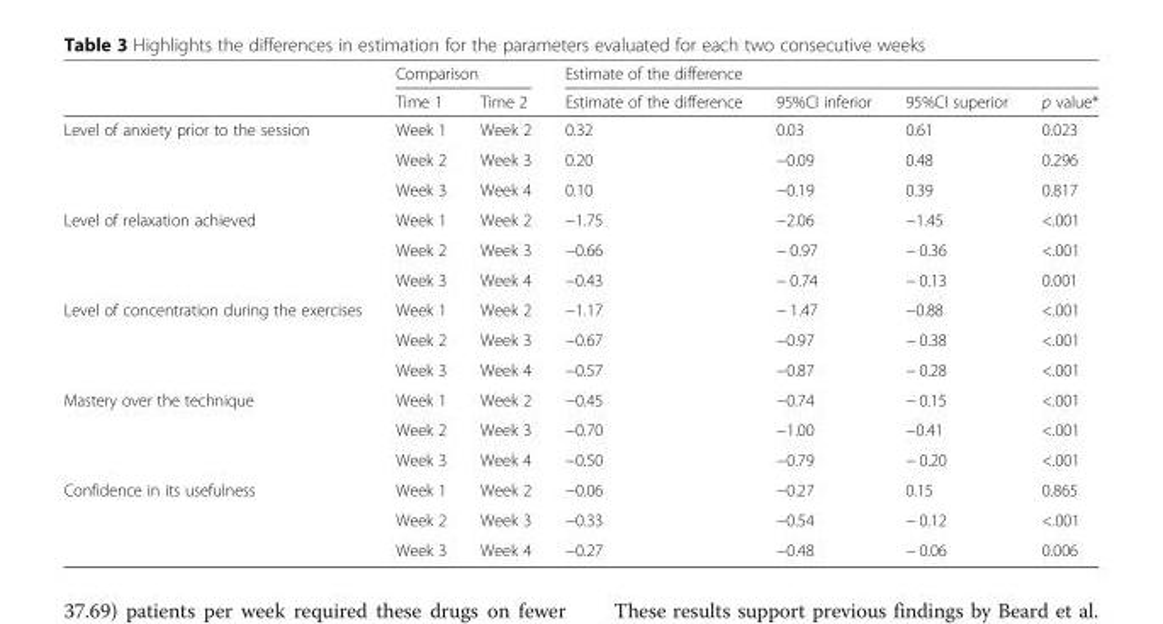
<table><thead><tr><td rowspan="2"></td><td colspan="2">Comparison</td><td colspan="4">Estimate of the difference</td></tr><tr><td>Time 1</td><td>Time 2</td><td>Estimate of the difference</td><td>95%CI inferior</td><td>95%CI superior</td><td>p value*</td></tr></thead><tbody><tr><td rowspan="3">Level of anxiety prior to the session</td><td>Week 1</td><td>Week 2</td><td>0.32</td><td>0.03</td><td>0.61</td><td>0.023</td></tr><tr><td>Week 2</td><td>Week 3</td><td>0.20</td><td>−0.09</td><td>0.48</td><td>0.296</td></tr><tr><td>Week 3</td><td>Week 4</td><td>0.10</td><td>−0.19</td><td>0.39</td><td>0.817</td></tr><tr><td rowspan="3">Level of relaxation achieved</td><td>Week 1</td><td>Week 2</td><td>−1.75</td><td>−2.06</td><td>−1.45</td><td>&lt;.001</td></tr><tr><td>Week 2</td><td>Week 3</td><td>−0.66</td><td>− 0.97</td><td>− 0.36</td><td>&lt;.001</td></tr><tr><td>Week 3</td><td>Week 4</td><td>−0.43</td><td>− 0.74</td><td>− 0.13</td><td>0.001</td></tr><tr><td rowspan="3">Level of concentration during the exercises</td><td>Week 1</td><td>Week 2</td><td>−1.17</td><td>− 1.47</td><td>−0.88</td><td>&lt;.001</td></tr><tr><td>Week 2</td><td>Week 3</td><td>−0.67</td><td>−0.97</td><td>− 0.38</td><td>&lt;.001</td></tr><tr><td>Week 3</td><td>Week 4</td><td>−0.57</td><td>−0.87</td><td>− 0.28</td><td>&lt;.001</td></tr><tr><td rowspan="3">Mastery over the technique</td><td>Week 1</td><td>Week 2</td><td>−0.45</td><td>−0.74</td><td>− 0.15</td><td>&lt;.001</td></tr><tr><td>Week 2</td><td>Week 3</td><td>−0.70</td><td>−1.00</td><td>−0.41</td><td>&lt;.001</td></tr><tr><td>Week 3</td><td>Week 4</td><td>−0.50</td><td>−0.79</td><td>− 0.20</td><td>&lt;.001</td></tr><tr><td rowspan="3">Confidence in its usefulness</td><td>Week 1</td><td>Week 2</td><td>−0.06</td><td>−0.27</td><td>0.15</td><td>0.865</td></tr><tr><td>Week 2</td><td>Week 3</td><td>−0.33</td><td>−0.54</td><td>− 0.12</td><td>&lt;.001</td></tr><tr><td>Week 3</td><td>Week 4</td><td>−0.27</td><td>−0.48</td><td>− 0.06</td><td>0.006</td></tr></tbody></table>